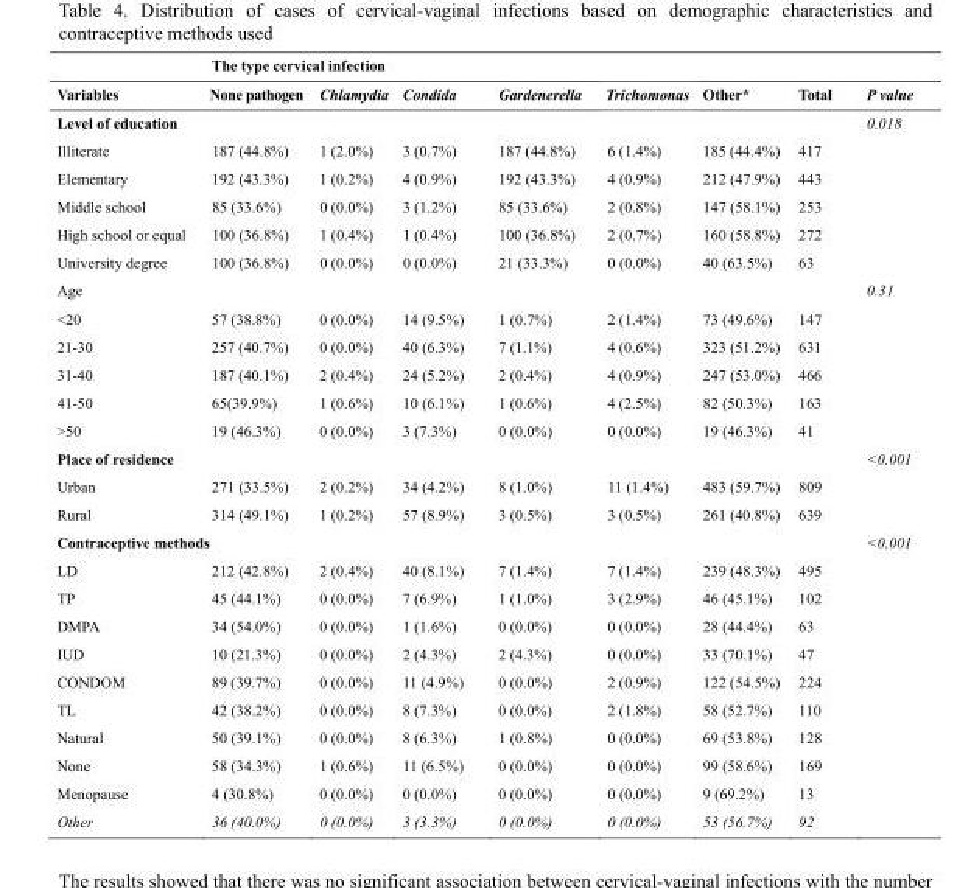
<table><thead><tr><td rowspan="2">Variables</td><td colspan="8">The type cervical infection</td></tr><tr><td>None pathogen</td><td>Chlamydia</td><td>Condida</td><td>Gardenerella</td><td>Trichomonas</td><td>Other*</td><td>Total</td><td>P value</td></tr></thead><tbody><tr><td colspan="8">Level of education</td><td>0.018</td></tr><tr><td>Illiterate</td><td>187 (44.8%)</td><td>1 (2.0%)</td><td>3 (0.7%)</td><td>187 (44.8%)</td><td>6 (1.4%)</td><td>185 (44.4%)</td><td>417</td><td></td></tr><tr><td>Elementary</td><td>192 (43.3%)</td><td>1 (0.2%)</td><td>4 (0.9%)</td><td>192 (43.3%)</td><td>4 (0.9%)</td><td>212 (47.9%)</td><td>443</td><td></td></tr><tr><td>Middle school</td><td>85 (33.6%)</td><td>0 (0.0%)</td><td>3 (1.2%)</td><td>85 (33.6%)</td><td>2 (0.8%)</td><td>147 (58.1%)</td><td>253</td><td></td></tr><tr><td>High school or equal</td><td>100 (36.8%)</td><td>1 (0.4%)</td><td>1 (0.4%)</td><td>100 (36.8%)</td><td>2 (0.7%)</td><td>160 (58.8%)</td><td>272</td><td></td></tr><tr><td>University degree</td><td>100 (36.8%)</td><td>0 (0.0%)</td><td>0 (0.0%)</td><td>21 (33.3%)</td><td>0 (0.0%)</td><td>40 (63.5%)</td><td>63</td><td></td></tr><tr><td colspan="8">Age</td><td>0.31</td></tr><tr><td>&lt;20</td><td>57 (38.8%)</td><td>0 (0.0%)</td><td>14 (9.5%)</td><td>1 (0.7%)</td><td>2 (1.4%)</td><td>73 (49.6%)</td><td>147</td><td></td></tr><tr><td>21-30</td><td>257 (40.7%)</td><td>0 (0.0%)</td><td>40 (6.3%)</td><td>7 (1.1%)</td><td>4 (0.6%)</td><td>323 (51.2%)</td><td>631</td><td></td></tr><tr><td>31-40</td><td>187 (40.1%)</td><td>2 (0.4%)</td><td>24 (5.2%)</td><td>2 (0.4%)</td><td>4 (0.9%)</td><td>247 (53.0%)</td><td>466</td><td></td></tr><tr><td>41-50</td><td>65(39.9%)</td><td>1 (0.6%)</td><td>10 (6.1%)</td><td>1 (0.6%)</td><td>4 (2.5%)</td><td>82 (50.3%)</td><td>163</td><td></td></tr><tr><td>&gt;50</td><td>19 (46.3%)</td><td>0 (0.0%)</td><td>3 (7.3%)</td><td>0 (0.0%)</td><td>0 (0.0%)</td><td>19 (46.3%)</td><td>41</td><td></td></tr><tr><td colspan="8">Place of residence</td><td>&lt;0.001</td></tr><tr><td>Urban</td><td>271 (33.5%)</td><td>2 (0.2%)</td><td>34 (4.2%)</td><td>8 (1.0%)</td><td>11 (1.4%)</td><td>483 (59.7%)</td><td>809</td><td></td></tr><tr><td>Rural</td><td>314 (49.1%)</td><td>1 (0.2%)</td><td>57 (8.9%)</td><td>3 (0.5%)</td><td>3 (0.5%)</td><td>261 (40.8%)</td><td>639</td><td></td></tr><tr><td colspan="8">Contraceptive methods</td><td>&lt;0.001</td></tr><tr><td>LD</td><td>212 (42.8%)</td><td>2 (0.4%)</td><td>40 (8.1%)</td><td>7 (1.4%)</td><td>7 (1.4%)</td><td>239 (48.3%)</td><td>495</td><td></td></tr><tr><td>TP</td><td>45 (44.1%)</td><td>0 (0.0%)</td><td>7 (6.9%)</td><td>1 (1.0%)</td><td>3 (2.9%)</td><td>46 (45.1%)</td><td>102</td><td></td></tr><tr><td>DMPA</td><td>34 (54.0%)</td><td>0 (0.0%)</td><td>1 (1.6%)</td><td>0 (0.0%)</td><td>0 (0.0%)</td><td>28 (44.4%)</td><td>63</td><td></td></tr><tr><td>IUD</td><td>10 (21.3%)</td><td>0 (0.0%)</td><td>2 (4.3%)</td><td>2 (4.3%)</td><td>0 (0.0%)</td><td>33 (70.1%)</td><td>47</td><td></td></tr><tr><td>CONDOM</td><td>89 (39.7%)</td><td>0 (0.0%)</td><td>11 (4.9%)</td><td>0 (0.0%)</td><td>2 (0.9%)</td><td>122 (54.5%)</td><td>224</td><td></td></tr><tr><td>TL</td><td>42 (38.2%)</td><td>0 (0.0%)</td><td>8 (7.3%)</td><td>0 (0.0%)</td><td>2 (1.8%)</td><td>58 (52.7%)</td><td>110</td><td></td></tr><tr><td>Natural</td><td>50 (39.1%)</td><td>0 (0.0%)</td><td>8 (6.3%)</td><td>1 (0.8%)</td><td>0 (0.0%)</td><td>69 (53.8%)</td><td>128</td><td></td></tr><tr><td>None</td><td>58 (34.3%)</td><td>1 (0.6%)</td><td>11 (6.5%)</td><td>0 (0.0%)</td><td>0 (0.0%)</td><td>99 (58.6%)</td><td>169</td><td></td></tr><tr><td>Menopause</td><td>4 (30.8%)</td><td>0 (0.0%)</td><td>0 (0.0%)</td><td>0 (0.0%)</td><td>0 (0.0%)</td><td>9 (69.2%)</td><td>13</td><td></td></tr><tr><td>Other</td><td>36 (40.0%)</td><td>0 (0.0%)</td><td>3 (3.3%)</td><td>0 (0.0%)</td><td>0 (0.0%)</td><td>53 (56.7%)</td><td>92</td><td></td></tr></tbody></table>